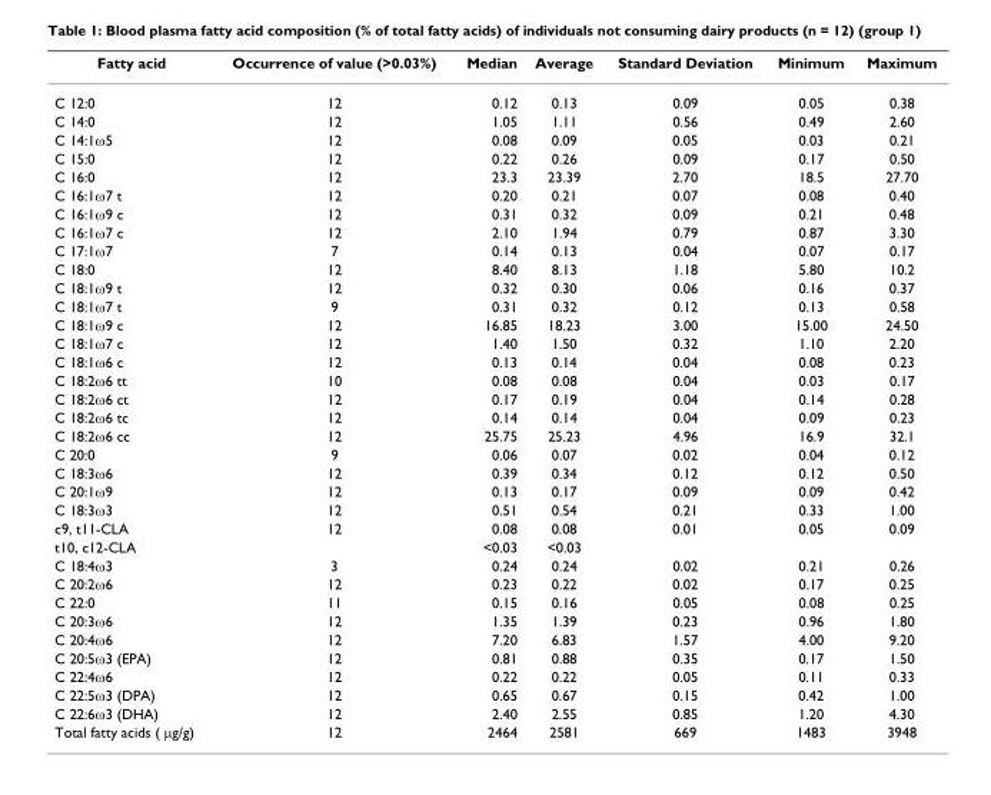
<table><thead><tr><td>Fatty acid</td><td>Occurrence of value (&gt;0.03%)</td><td>Median</td><td>Average</td><td>Standard Deviation</td><td>Minimum</td><td>Maximum</td></tr></thead><tbody><tr><td>C 12:0</td><td>12</td><td>0.12</td><td>0.13</td><td>0.09</td><td>0.05</td><td>0.38</td></tr><tr><td>C 14:0</td><td>12</td><td>1.05</td><td>1.11</td><td>0.56</td><td>0.49</td><td>2.60</td></tr><tr><td>C 14:1ω5</td><td>12</td><td>0.08</td><td>0.09</td><td>0.05</td><td>0.03</td><td>0.21</td></tr><tr><td>C 15:0</td><td>12</td><td>0.22</td><td>0.26</td><td>0.09</td><td>0.17</td><td>0.50</td></tr><tr><td>C 16:0</td><td>12</td><td>23.3</td><td>23.39</td><td>2.70</td><td>18.5</td><td>27.70</td></tr><tr><td>C 16:1ω7 t</td><td>12</td><td>0.20</td><td>0.21</td><td>0.07</td><td>0.08</td><td>0.40</td></tr><tr><td>C 16:1ω9 c</td><td>12</td><td>0.31</td><td>0.32</td><td>0.09</td><td>0.21</td><td>0.48</td></tr><tr><td>C 16:1ω7 c</td><td>12</td><td>2.10</td><td>1.94</td><td>0.79</td><td>0.87</td><td>3.30</td></tr><tr><td>C 17:1ω7</td><td>7</td><td>0.14</td><td>0.13</td><td>0.04</td><td>0.07</td><td>0.17</td></tr><tr><td>C 18:0</td><td>12</td><td>8.40</td><td>8.13</td><td>1.18</td><td>5.80</td><td>10.2</td></tr><tr><td>C 18:1ω9 t</td><td>12</td><td>0.32</td><td>0.30</td><td>0.06</td><td>0.16</td><td>0.37</td></tr><tr><td>C 18:1ω7 t</td><td>9</td><td>0.31</td><td>0.32</td><td>0.12</td><td>0.13</td><td>0.58</td></tr><tr><td>C 18:1ω9 c</td><td>12</td><td>16.85</td><td>18.23</td><td>3.00</td><td>15.00</td><td>24.50</td></tr><tr><td>C 18:1ω7 c</td><td>12</td><td>1.40</td><td>1.50</td><td>0.32</td><td>1.10</td><td>2.20</td></tr><tr><td>C 18:1ω6 c</td><td>12</td><td>0.13</td><td>0.14</td><td>0.04</td><td>0.08</td><td>0.23</td></tr><tr><td>C 18:2ω6 tt</td><td>10</td><td>0.08</td><td>0.08</td><td>0.04</td><td>0.03</td><td>0.17</td></tr><tr><td>C 18:2ω6 ct</td><td>12</td><td>0.17</td><td>0.19</td><td>0.04</td><td>0.14</td><td>0.28</td></tr><tr><td>C 18:2ω6 tc</td><td>12</td><td>0.14</td><td>0.14</td><td>0.04</td><td>0.09</td><td>0.23</td></tr><tr><td>C 18:2ω6 cc</td><td>12</td><td>25.75</td><td>25.23</td><td>4.96</td><td>16.9</td><td>32.1</td></tr><tr><td>C 20:0</td><td>9</td><td>0.06</td><td>0.07</td><td>0.02</td><td>0.04</td><td>0.12</td></tr><tr><td>C 18:3ω6</td><td>12</td><td>0.39</td><td>0.34</td><td>0.12</td><td>0.12</td><td>0.50</td></tr><tr><td>C 20:1ω9</td><td>12</td><td>0.13</td><td>0.17</td><td>0.09</td><td>0.09</td><td>0.42</td></tr><tr><td>C 18:3ω3</td><td>12</td><td>0.51</td><td>0.54</td><td>0.21</td><td>0.33</td><td>1.00</td></tr><tr><td>c9, t11-CLA</td><td>12</td><td>0.08</td><td>0.08</td><td>0.01</td><td>0.05</td><td>0.09</td></tr><tr><td>t10, c12-CLA</td><td></td><td>&lt;0.03</td><td>&lt;0.03</td><td></td><td></td><td></td></tr><tr><td>C 18:4ω3</td><td>3</td><td>0.24</td><td>0.24</td><td>0.02</td><td>0.21</td><td>0.26</td></tr><tr><td>C 20:2ω6</td><td>12</td><td>0.23</td><td>0.22</td><td>0.02</td><td>0.17</td><td>0.25</td></tr><tr><td>C 22:0</td><td>11</td><td>0.15</td><td>0.16</td><td>0.05</td><td>0.08</td><td>0.25</td></tr><tr><td>C 20:3ω6</td><td>12</td><td>1.35</td><td>1.39</td><td>0.23</td><td>0.96</td><td>1.80</td></tr><tr><td>C 20:4ω6</td><td>12</td><td>7.20</td><td>6.83</td><td>1.57</td><td>4.00</td><td>9.20</td></tr><tr><td>C 20:5ω3 (EPA)</td><td>12</td><td>0.81</td><td>0.88</td><td>0.35</td><td>0.17</td><td>1.50</td></tr><tr><td>C 22:4ω6</td><td>12</td><td>0.22</td><td>0.22</td><td>0.05</td><td>0.11</td><td>0.33</td></tr><tr><td>C 22:5ω3 (DPA)</td><td>12</td><td>0.65</td><td>0.67</td><td>0.15</td><td>0.42</td><td>1.00</td></tr><tr><td>C 22:6ω3 (DHA)</td><td>12</td><td>2.40</td><td>2.55</td><td>0.85</td><td>1.20</td><td>4.30</td></tr><tr><td>Total fatty acids ( μg/g)</td><td>12</td><td>2464</td><td>2581</td><td>669</td><td>1483</td><td>3948</td></tr></tbody></table>